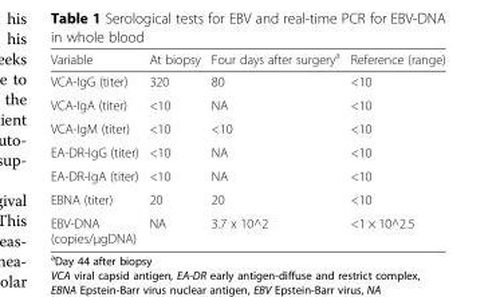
<table><thead><tr><td>Variable</td><td>At biopsy</td><td>Four days after surgery<sup>a</sup></td><td>Reference (range)</td></tr></thead><tbody><tr><td>VCA-IgG (titer)</td><td>320</td><td>80</td><td>&lt;10</td></tr><tr><td>VCA-IgA (titer)</td><td>&lt;10</td><td>NA</td><td>&lt;10</td></tr><tr><td>VCA-IgM (titer)</td><td>&lt;10</td><td>&lt;10</td><td>&lt;10</td></tr><tr><td>EA-DR-IgG (titer)</td><td>&lt;10</td><td>NA</td><td>&lt;10</td></tr><tr><td>EA-DR-IgA (titer)</td><td>&lt;10</td><td>NA</td><td>&lt;10</td></tr><tr><td>EBNA (titer)</td><td>20</td><td>20</td><td>&lt;10</td></tr><tr><td>EBV-DNA (copies/μgDNA)</td><td>NA</td><td>3.7 x 10^2</td><td>&lt;1 × 10^2.5</td></tr></tbody></table>